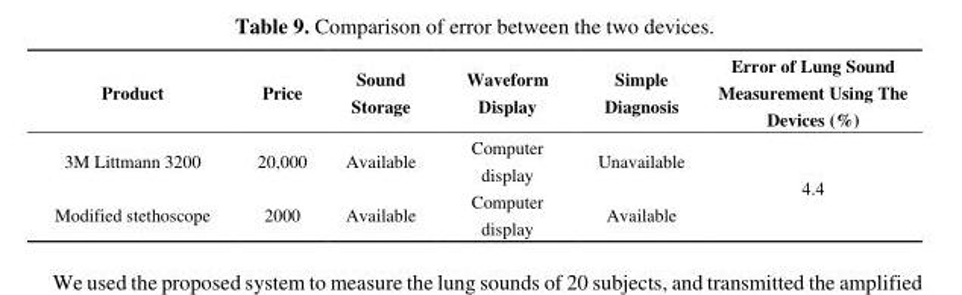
<table><thead><tr><td>Product</td><td>Price</td><td>Sound Storage</td><td>Waveform Display</td><td>Simple Diagnosis</td><td>Error of Lung Sound Measurement Using The Devices (%)</td></tr></thead><tbody><tr><td>3M Littmann 3200</td><td>20,000</td><td>Available</td><td>Computer display</td><td>Unavailable</td><td rowspan="2">4.4</td></tr><tr><td>Modified stethoscope</td><td>2000</td><td>Available</td><td>Computer display</td><td>Available</td></tr></tbody></table>